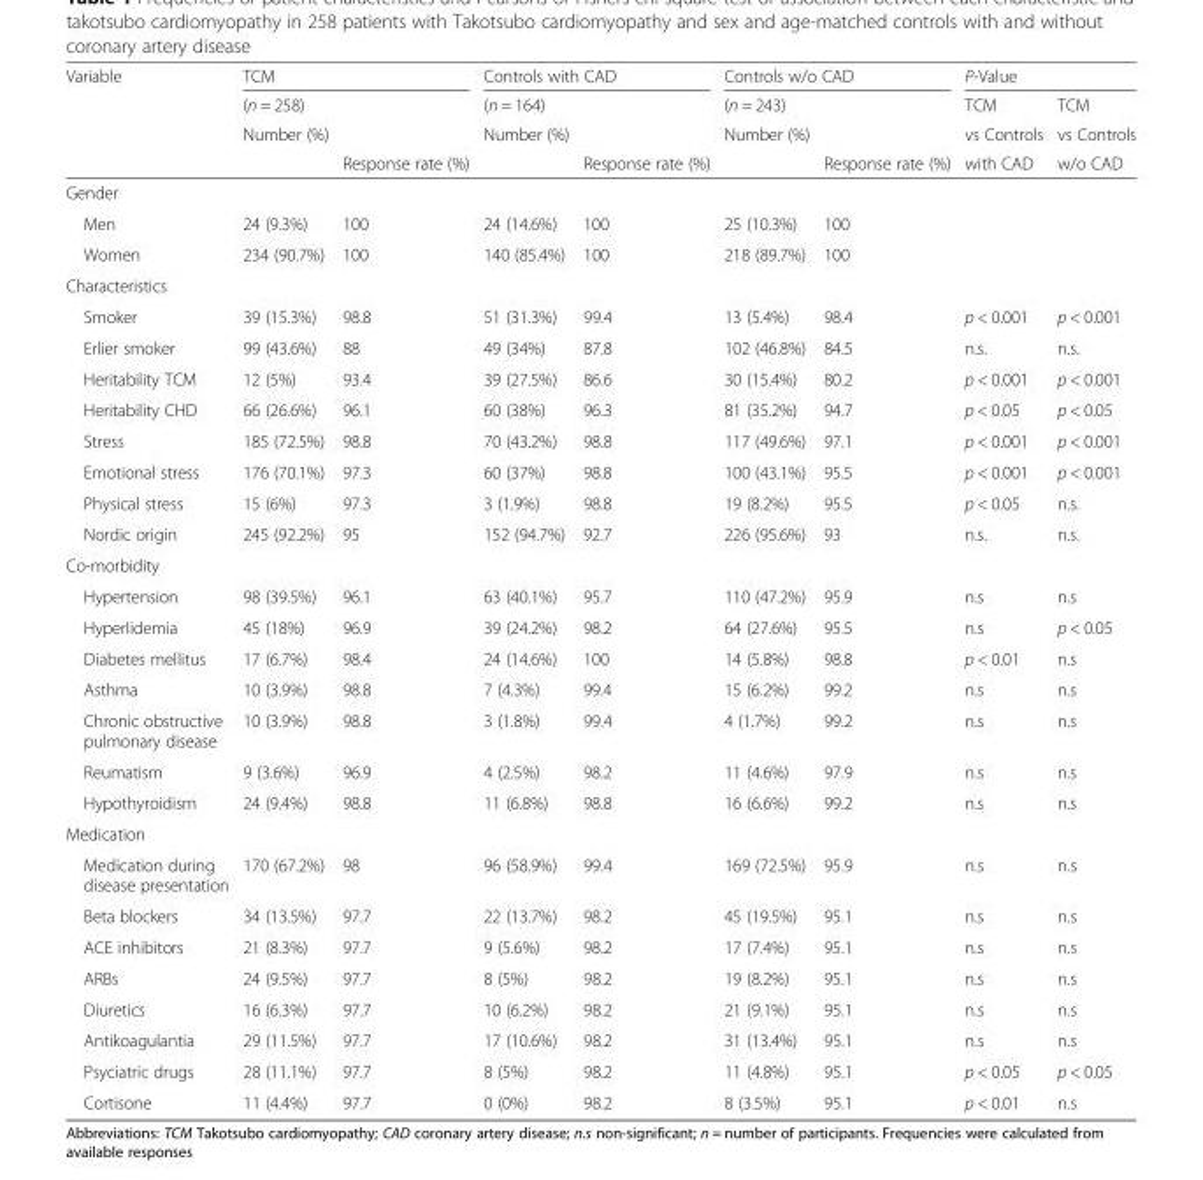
<table><thead><tr><td rowspan="4">Variable</td><td colspan="2">TCM</td><td colspan="2">Controls with CAD</td><td colspan="2">Controls w/o CAD</td><td colspan="2">P-Value</td></tr><tr><td rowspan="3">(n = 258) Number (%)</td><td rowspan="3">Response rate (%)</td><td rowspan="3">(n = 164) Number (%)</td><td rowspan="3">Response rate (%)</td><td rowspan="3">(n = 243) Number (%)</td><td rowspan="3">Response rate (%)</td><td rowspan="3">TCM vs Controls with CAD</td><td rowspan="3">TCM vs Controls w/o CAD</td></tr><tr></tr><tr></tr></thead><tbody><tr><td colspan="9">Gender</td></tr><tr><td>Men</td><td>24 (9.3%)</td><td>100</td><td>24 (14.6%)</td><td>100</td><td>25 (10.3%)</td><td>100</td><td></td><td></td></tr><tr><td>Women</td><td>234 (90.7%)</td><td>100</td><td>140 (85.4%)</td><td>100</td><td>218 (89.7%)</td><td>100</td><td></td><td></td></tr><tr><td colspan="9">Characteristics</td></tr><tr><td>Smoker</td><td>39 (15.3%)</td><td>98.8</td><td>51 (31.3%)</td><td>99.4</td><td>13 (5.4%)</td><td>98.4</td><td>p &lt; 0.001</td><td>p &lt; 0.001</td></tr><tr><td>Erlier smoker</td><td>99 (43.6%)</td><td>88</td><td>49 (34%)</td><td>87.8</td><td>102 (46.8%)</td><td>84.5</td><td>n.s.</td><td>n.s.</td></tr><tr><td>Heritability TCM</td><td>12 (5%)</td><td>93.4</td><td>39 (27.5%)</td><td>86.6</td><td>30 (15.4%)</td><td>80.2</td><td>p &lt; 0.001</td><td>p &lt; 0.001</td></tr><tr><td>Heritability CHD</td><td>66 (26.6%)</td><td>96.1</td><td>60 (38%)</td><td>96.3</td><td>81 (35.2%)</td><td>94.7</td><td>p &lt; 0.05</td><td>p &lt; 0.05</td></tr><tr><td>Stress</td><td>185 (72.5%)</td><td>98.8</td><td>70 (43.2%)</td><td>98.8</td><td>117 (49.6%)</td><td>97.1</td><td>p &lt; 0.001</td><td>p &lt; 0.001</td></tr><tr><td>Emotional stress</td><td>176 (70.1%)</td><td>97.3</td><td>60 (37%)</td><td>98.8</td><td>100 (43.1%)</td><td>95.5</td><td>p &lt; 0.001</td><td>p &lt; 0.001</td></tr><tr><td>Physical stress</td><td>15 (6%)</td><td>97.3</td><td>3 (1.9%)</td><td>98.8</td><td>19 (8.2%)</td><td>95.5</td><td>p &lt; 0.05</td><td>n.s.</td></tr><tr><td>Nordic origin</td><td>245 (92.2%)</td><td>95</td><td>152 (94.7%)</td><td>92.7</td><td>226 (95.6%)</td><td>93</td><td>n.s.</td><td>n.s.</td></tr><tr><td colspan="9">Co-morbidity</td></tr><tr><td>Hypertension</td><td>98 (39.5%)</td><td>96.1</td><td>63 (40.1%)</td><td>95.7</td><td>110 (47.2%)</td><td>95.9</td><td>n.s</td><td>n.s</td></tr><tr><td>Hyperlidemia</td><td>45 (18%)</td><td>96.9</td><td>39 (24.2%)</td><td>98.2</td><td>64 (27.6%)</td><td>95.5</td><td>n.s</td><td>p &lt; 0.05</td></tr><tr><td>Diabetes mellitus</td><td>17 (6.7%)</td><td>98.4</td><td>24 (14.6%)</td><td>100</td><td>14 (5.8%)</td><td>98.8</td><td>p &lt; 0.01</td><td>n.s</td></tr><tr><td>Asthma</td><td>10 (3.9%)</td><td>98.8</td><td>7 (4.3%)</td><td>99.4</td><td>15 (6.2%)</td><td>99.2</td><td>n.s</td><td>n.s</td></tr><tr><td>Chronic obstructive pulmonary disease</td><td>10 (3.9%)</td><td>98.8</td><td>3 (1.8%)</td><td>99.4</td><td>4 (1.7%)</td><td>99.2</td><td>n.s</td><td>n.s</td></tr><tr><td>Reumatism</td><td>9 (3.6%)</td><td>96.9</td><td>4 (2.5%)</td><td>98.2</td><td>11 (4.6%)</td><td>97.9</td><td>n.s</td><td>n.s</td></tr><tr><td>Hypothyroidism</td><td>24 (9.4%)</td><td>98.8</td><td>11 (6.8%)</td><td>98.8</td><td>16 (6.6%)</td><td>99.2</td><td>n.s</td><td>n.s</td></tr><tr><td colspan="9">Medication</td></tr><tr><td>Medication during disease presentation</td><td>170 (67.2%)</td><td>98</td><td>96 (58.9%)</td><td>99.4</td><td>169 (72.5%)</td><td>95.9</td><td>n.s</td><td>n.s</td></tr><tr><td>Beta blockers</td><td>34 (13.5%)</td><td>97.7</td><td>22 (13.7%)</td><td>98.2</td><td>45 (19.5%)</td><td>95.1</td><td>n.s</td><td>n.s</td></tr><tr><td>ACE inhibitors</td><td>21 (8.3%)</td><td>97.7</td><td>9 (5.6%)</td><td>98.2</td><td>17 (7.4%)</td><td>95.1</td><td>n.s</td><td>n.s</td></tr><tr><td>ARBs</td><td>24 (9.5%)</td><td>97.7</td><td>8 (5%)</td><td>98.2</td><td>19 (8.2%)</td><td>95.1</td><td>n.s</td><td>n.s</td></tr><tr><td>Diuretics</td><td>16 (6.3%)</td><td>97.7</td><td>10 (6.2%)</td><td>98.2</td><td>21 (9.1%)</td><td>95.1</td><td>n.s</td><td>n.s</td></tr><tr><td>Antikoagulantia</td><td>29 (11.5%)</td><td>97.7</td><td>17 (10.6%)</td><td>98.2</td><td>31 (13.4%)</td><td>95.1</td><td>n.s</td><td>n.s</td></tr><tr><td>Psyciatric drugs</td><td>28 (11.1%)</td><td>97.7</td><td>8 (5%)</td><td>98.2</td><td>11 (4.8%)</td><td>95.1</td><td>p &lt; 0.05</td><td>p &lt; 0.05</td></tr><tr><td>Cortisone</td><td>11 (4.4%)</td><td>97.7</td><td>0 (0%)</td><td>98.2</td><td>8 (3.5%)</td><td>95.1</td><td>p &lt; 0.01</td><td>n.s</td></tr></tbody></table>